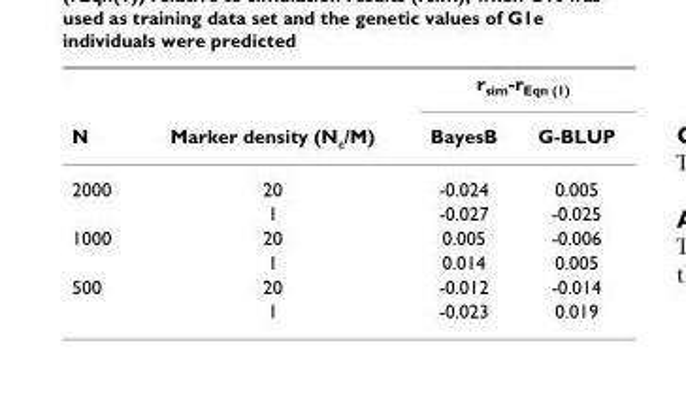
<table><thead><tr><td rowspan="2">N</td><td rowspan="2">Marker density (N<sub>e</sub>/M)</td><td colspan="2">r<sub>sim</sub>-r<sub>Eqn (1)</sub></td></tr><tr><td>BayesB</td><td>G-BLUP</td></tr></thead><tbody><tr><td rowspan="2">2000</td><td>20</td><td>-0.024</td><td>0.005</td></tr><tr><td>1</td><td>-0.027</td><td>-0.025</td></tr><tr><td rowspan="2">1000</td><td>20</td><td>0.005</td><td>-0.006</td></tr><tr><td>1</td><td>0.014</td><td>0.005</td></tr><tr><td rowspan="2">500</td><td>20</td><td>-0.012</td><td>-0.014</td></tr><tr><td>1</td><td>-0.023</td><td>0.019</td></tr></tbody></table>